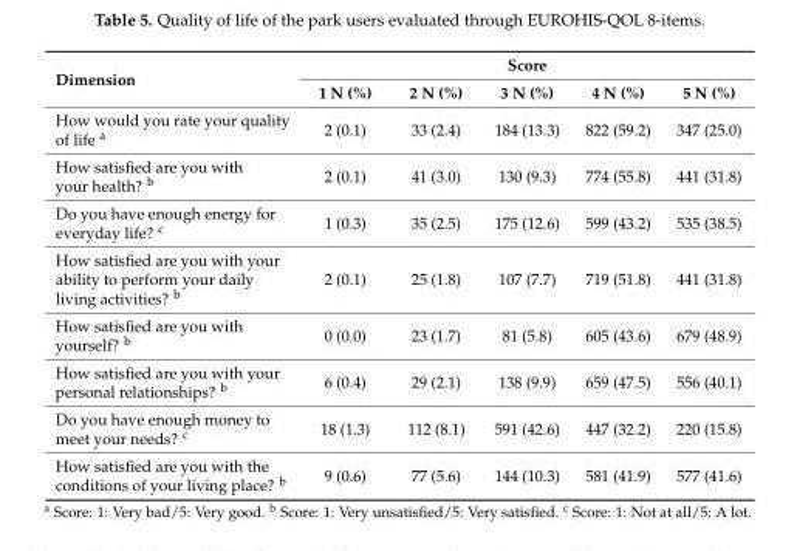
<table><thead><tr><td rowspan="2">Dimension</td><td colspan="5">Score</td></tr><tr><td>1 N (%)</td><td>2 N (%)</td><td>3 N (%)</td><td>4 N (%)</td><td>5 N (%)</td></tr></thead><tbody><tr><td>How would you rate your quality of life <sup>a</sup></td><td>2 (0.1)</td><td>33 (2.4)</td><td>184 (13.3)</td><td>822 (59.2)</td><td>347 (25.0)</td></tr><tr><td>How satisfied are you with your health? <sup>b</sup></td><td>2 (0.1)</td><td>41 (3.0)</td><td>130 (9.3)</td><td>774 (55.8)</td><td>441 (31.8)</td></tr><tr><td>Do you have enough energy for everyday life? <sup>c</sup></td><td>1 (0.3)</td><td>35 (2.5)</td><td>175 (12.6)</td><td>599 (43.2)</td><td>535 (38.5)</td></tr><tr><td>How satisfied are you with your ability to perform your daily living activities? <sup>b</sup></td><td>2 (0.1)</td><td>25 (1.8)</td><td>107 (7.7)</td><td>719 (51.8)</td><td>441 (31.8)</td></tr><tr><td>How satisfied are you with yourself? <sup>b</sup></td><td>0 (0.0)</td><td>23 (1.7)</td><td>81 (5.8)</td><td>605 (43.6)</td><td>679 (48.9)</td></tr><tr><td>How satisfied are you with your personal relationships? <sup>b</sup></td><td>6 (0.4)</td><td>29 (2.1)</td><td>138 (9.9)</td><td>659 (47.5)</td><td>556 (40.1)</td></tr><tr><td>Do you have enough money to meet your needs? <sup>c</sup></td><td>18 (1.3)</td><td>112 (8.1)</td><td>591 (42.6)</td><td>447 (32.2)</td><td>220 (15.8)</td></tr><tr><td>How satisfied are you with the conditions of your living place? <sup>b</sup></td><td>9 (0.6)</td><td>77 (5.6)</td><td>144 (10.3)</td><td>581 (41.9)</td><td>577 (41.6)</td></tr></tbody></table>